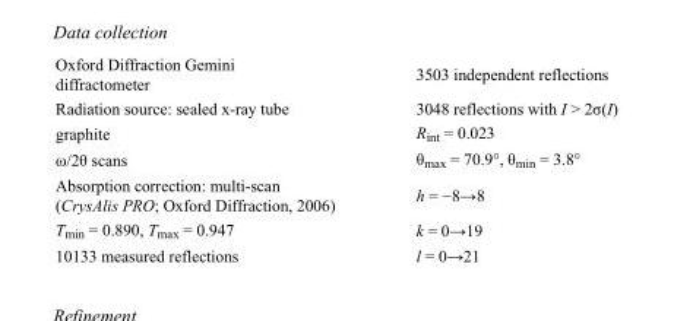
<table><tbody><tr><td>Oxford Diffraction Gemini diffractometer</td><td>3503 independent reflections</td></tr><tr><td>Radiation source: sealed x-ray tube</td><td>3048 reflections with I &gt; 2σ(I)</td></tr><tr><td>graphite</td><td>R<sub>int</sub> = 0.023</td></tr><tr><td>ω/2θ scans</td><td>θ<sub>max</sub> = 70.9°, θ<sub>min</sub> = 3.8°</td></tr><tr><td>Absorption correction: multi-scan (CrysAlis PRO; Oxford Diffraction, 2006)</td><td>h = −8→8</td></tr><tr><td>T<sub>min</sub> = 0.890, T<sub>max</sub> = 0.947</td><td>k = 0→19</td></tr><tr><td>10133 measured reflections</td><td>l = 0→21</td></tr></tbody></table>